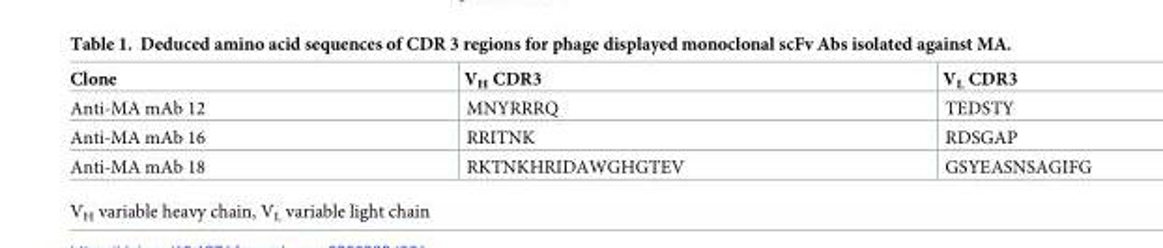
<table><thead><tr><td>Clone</td><td>V<sub>H</sub> CDR3</td><td>V<sub>L</sub> CDR3</td></tr></thead><tbody><tr><td>Anti-MA mAb 12</td><td>MNYRRRQ</td><td>TEDSTY</td></tr><tr><td>Anti-MA mAb 16</td><td>RRITNK</td><td>RDSGAP</td></tr><tr><td>Anti-MA mAb 18</td><td>RKTNKHRIDAWGHGTEV</td><td>GSYEASNSAGIFG</td></tr></tbody></table>